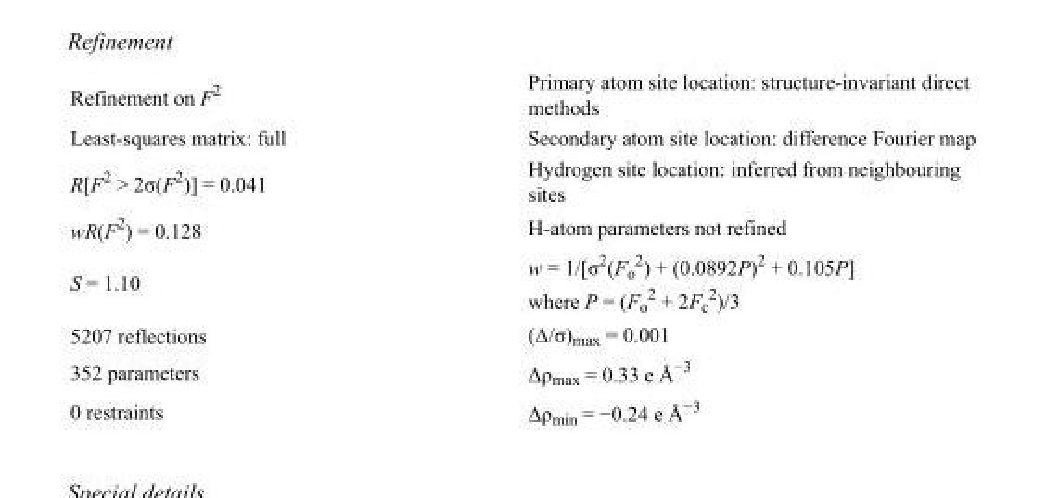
<table><tbody><tr><td>Refinement on F<sup>2</sup></td><td>Primary atom site location: structure-invariant direct methods</td></tr><tr><td>Least-squares matrix: full</td><td>Secondary atom site location: difference Fourier map</td></tr><tr><td>R[F<sup>2</sup> &gt; 2σ(F<sup>2</sup>)] = 0.041</td><td>Hydrogen site location: inferred from neighbouring sites</td></tr><tr><td>wR(F<sup>2</sup>) = 0.128</td><td>H-atom parameters not refined</td></tr><tr><td>S = 1.10</td><td>w = 1/[σ<sup>2</sup>(F<sub>o</sub> <sup>2</sup>) + (0.0892P)<sup>2</sup> + 0.105P] where P = (F<sub>o</sub> <sup>2</sup> + 2F<sub>c</sub> <sup>2</sup>)/3</td></tr><tr><td>5207 reflections</td><td>(Δ/σ)<sub>max</sub> = 0.001</td></tr><tr><td>352 parameters</td><td>Δρ<sub>max</sub> = 0.33 e Å<sup>−3</sup></td></tr><tr><td>0 restraints</td><td>Δρ<sub>min</sub> = −0.24 e Å<sup>−3</sup></td></tr></tbody></table>